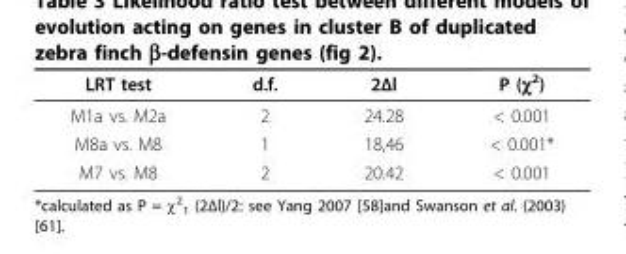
<table><thead><tr><td>LRT test</td><td>d.f.</td><td>2Δl</td><td>P (χ<sup>2</sup>)</td></tr></thead><tbody><tr><td>M1a vs. M2a</td><td>2</td><td>24.28</td><td>&lt; 0.001</td></tr><tr><td>M8a vs. M8</td><td>1</td><td>18,46</td><td>&lt; 0.001*</td></tr><tr><td>M7 vs. M8</td><td>2</td><td>20.42</td><td>&lt; 0.001</td></tr></tbody></table>